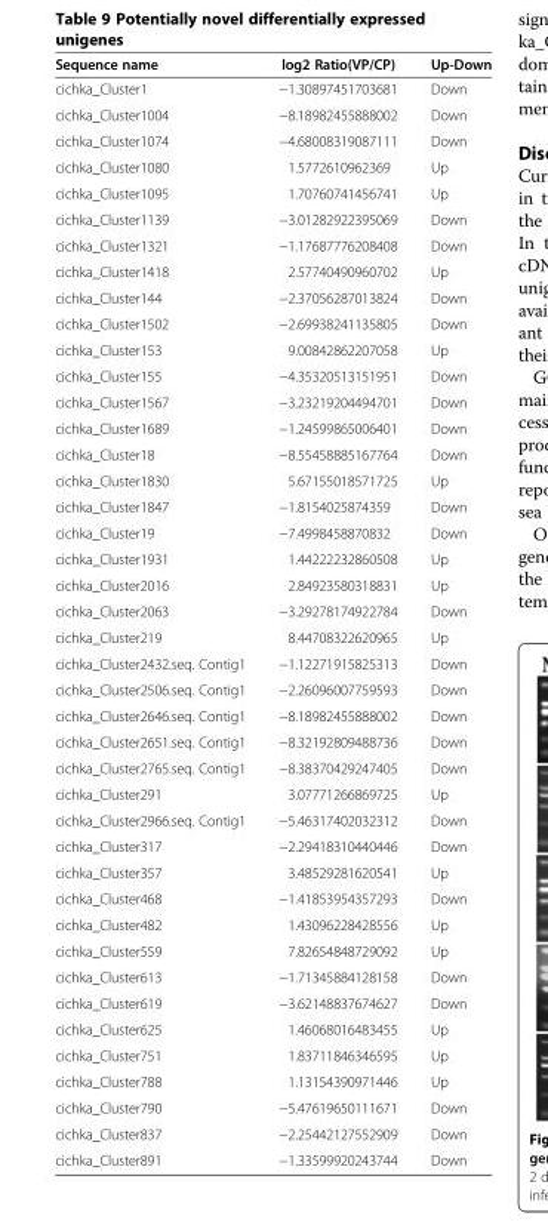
<table><thead><tr><td>Sequence name</td><td>log2 Ratio(VP/CP)</td><td>Up-Down</td></tr></thead><tbody><tr><td>cichka_Cluster1</td><td>−1.30897451703681</td><td>Down</td></tr><tr><td>cichka_Cluster1004</td><td>−8.18982455888002</td><td>Down</td></tr><tr><td>cichka_Cluster1074</td><td>−4.68008319087111</td><td>Down</td></tr><tr><td>cichka_Cluster1080</td><td>1.5772610962369</td><td>Up</td></tr><tr><td>cichka_Cluster1095</td><td>1.70760741456741</td><td>Up</td></tr><tr><td>cichka_Cluster1139</td><td>−3.01282922395069</td><td>Down</td></tr><tr><td>cichka_Cluster1321</td><td>−1.17687776208408</td><td>Down</td></tr><tr><td>cichka_Cluster1418</td><td>2.57740490960702</td><td>Up</td></tr><tr><td>cichka_Cluster144</td><td>−2.37056287013824</td><td>Down</td></tr><tr><td>cichka_Cluster1502</td><td>−2.69938241135805</td><td>Down</td></tr><tr><td>cichka_Cluster153</td><td>9.00842862207058</td><td>Up</td></tr><tr><td>cichka_Cluster155</td><td>−4.35320513151951</td><td>Down</td></tr><tr><td>cichka_Cluster1567</td><td>−3.23219204494701</td><td>Down</td></tr><tr><td>cichka_Cluster1689</td><td>−1.24599865006401</td><td>Down</td></tr><tr><td>cichka_Cluster18</td><td>−8.55458885167764</td><td>Down</td></tr><tr><td>cichka_Cluster1830</td><td>5.67155018571725</td><td>Up</td></tr><tr><td>cichka_Cluster1847</td><td>−1.8154025874359</td><td>Down</td></tr><tr><td>cichka_Cluster19</td><td>−7.4998458870832</td><td>Down</td></tr><tr><td>cichka_Cluster1931</td><td>1.44222232860508</td><td>Up</td></tr><tr><td>cichka_Cluster2016</td><td>2.84923580318831</td><td>Up</td></tr><tr><td>cichka_Cluster2063</td><td>−3.29278174922784</td><td>Down</td></tr><tr><td>cichka_Cluster219</td><td>8.44708322620965</td><td>Up</td></tr><tr><td>cichka_Cluster2432.seq. Contig1</td><td>−1.12271915825313</td><td>Down</td></tr><tr><td>cichka_Cluster2506.seq. Contig1</td><td>−2.26096007759593</td><td>Down</td></tr><tr><td>cichka_Cluster2646.seq. Contig1</td><td>−8.18982455888002</td><td>Down</td></tr><tr><td>cichka_Cluster2651.seq. Contig1</td><td>−8.32192809488736</td><td>Down</td></tr><tr><td>cichka_Cluster2765.seq. Contig1</td><td>−8.38370429247405</td><td>Down</td></tr><tr><td>cichka_Cluster291</td><td>3.07771266869725</td><td>Up</td></tr><tr><td>cichka_Cluster2966.seq. Contig1</td><td>−5.46317402032312</td><td>Down</td></tr><tr><td>cichka_Cluster317</td><td>−2.29418310440446</td><td>Down</td></tr><tr><td>cichka_Cluster357</td><td>3.48529281620541</td><td>Up</td></tr><tr><td>cichka_Cluster468</td><td>−1.41853954357293</td><td>Down</td></tr><tr><td>cichka_Cluster482</td><td>1.43096228428556</td><td>Up</td></tr><tr><td>cichka_Cluster559</td><td>7.82654848729092</td><td>Up</td></tr><tr><td>cichka_Cluster613</td><td>−1.71345884128158</td><td>Down</td></tr><tr><td>cichka_Cluster619</td><td>−3.62148837674627</td><td>Down</td></tr><tr><td>cichka_Cluster625</td><td>1.46068016483455</td><td>Up</td></tr><tr><td>cichka_Cluster751</td><td>1.83711846346595</td><td>Up</td></tr><tr><td>cichka_Cluster788</td><td>1.13154390971446</td><td>Up</td></tr><tr><td>cichka_Cluster790</td><td>−5.47619650111671</td><td>Down</td></tr><tr><td>cichka_Cluster837</td><td>−2.25442127552909</td><td>Down</td></tr><tr><td>cichka_Cluster891</td><td>−1.33599920243744</td><td>Down</td></tr></tbody></table>